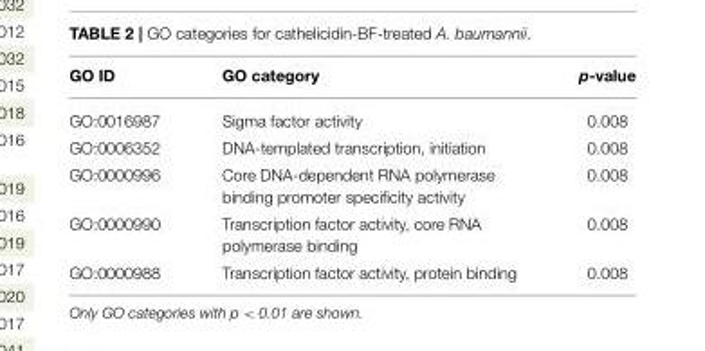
<table><thead><tr><td>GO ID</td><td>GO category</td><td>p-value</td></tr></thead><tbody><tr><td>GO:0016987</td><td>Sigma factor activity</td><td>0.008</td></tr><tr><td>GO:0006352</td><td>DNA-templated transcription, initiation</td><td>0.008</td></tr><tr><td>GO:0000996</td><td>Core DNA-dependent RNA polymerase binding promoter specificity activity</td><td>0.008</td></tr><tr><td>GO:0000990</td><td>Transcription factor activity, core RNA polymerase binding</td><td>0.008</td></tr><tr><td>GO:0000988</td><td>Transcription factor activity, protein binding</td><td>0.008</td></tr></tbody></table>